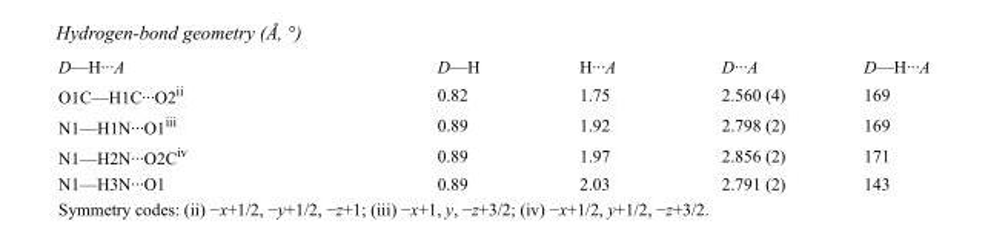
<table><tbody><tr><td>D—H···A</td><td>D—H</td><td>H···A</td><td>D···A</td><td>D—H···A</td></tr><tr><td>O1C—H1C···O2<sup>ii</sup></td><td>0.82</td><td>1.75</td><td>2.560 (4)</td><td>169</td></tr><tr><td>N1—H1N···O1<sup>iii</sup></td><td>0.89</td><td>1.92</td><td>2.798 (2)</td><td>169</td></tr><tr><td>N1—H2N···O2C<sup>iv</sup></td><td>0.89</td><td>1.97</td><td>2.856 (2)</td><td>171</td></tr><tr><td>N1—H3N···O1</td><td>0.89</td><td>2.03</td><td>2.791 (2)</td><td>143</td></tr></tbody></table>